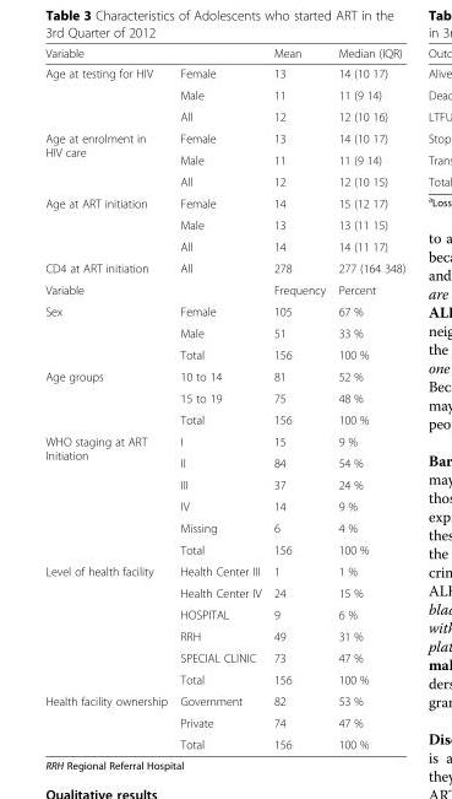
<table><thead><tr><td>Variable</td><td></td><td>Mean</td><td>Median (IQR)</td></tr></thead><tbody><tr><td rowspan="3">Age at testing for HIV</td><td>Female</td><td>13</td><td>14 (10 17)</td></tr><tr><td>Male</td><td>11</td><td>11 (9 14)</td></tr><tr><td>All</td><td>12</td><td>12 (10 16)</td></tr><tr><td rowspan="3">Age at enrolment in HIV care</td><td>Female</td><td>13</td><td>14 (10 17)</td></tr><tr><td>Male</td><td>11</td><td>11 (9 14)</td></tr><tr><td>All</td><td>12</td><td>12 (10 15)</td></tr><tr><td rowspan="3">Age at ART initiation</td><td>Female</td><td>14</td><td>15 (12 17)</td></tr><tr><td>Male</td><td>13</td><td>13 (11 15)</td></tr><tr><td>All</td><td>14</td><td>14 (11 17)</td></tr><tr><td>CD4 at ART initiation</td><td>All</td><td>278</td><td>277 (164 348)</td></tr><tr><td>Variable</td><td></td><td>Frequency</td><td>Percent</td></tr><tr><td rowspan="3">Sex</td><td>Female</td><td>105</td><td>67 %</td></tr><tr><td>Male</td><td>51</td><td>33 %</td></tr><tr><td>Total</td><td>156</td><td>100 %</td></tr><tr><td rowspan="3">Age groups</td><td>10 to 14</td><td>81</td><td>52 %</td></tr><tr><td>15 to 19</td><td>75</td><td>48 %</td></tr><tr><td>Total</td><td>156</td><td>100 %</td></tr><tr><td rowspan="6">WHO staging at ART Initiation</td><td>I</td><td>15</td><td>9 %</td></tr><tr><td>II</td><td>84</td><td>54 %</td></tr><tr><td>III</td><td>37</td><td>24 %</td></tr><tr><td>IV</td><td>14</td><td>9 %</td></tr><tr><td>Missing</td><td>6</td><td>4 %</td></tr><tr><td>Total</td><td>156</td><td>100 %</td></tr><tr><td rowspan="6">Level of health facility</td><td>Health Center III</td><td>1</td><td>1 %</td></tr><tr><td>Health Center IV</td><td>24</td><td>15 %</td></tr><tr><td>HOSPITAL</td><td>9</td><td>6 %</td></tr><tr><td>RRH</td><td>49</td><td>31 %</td></tr><tr><td>SPECIAL CLINIC</td><td>73</td><td>47 %</td></tr><tr><td>Total</td><td>156</td><td>100 %</td></tr><tr><td rowspan="3">Health facility ownership</td><td>Government</td><td>82</td><td>53 %</td></tr><tr><td>Private</td><td>74</td><td>47 %</td></tr><tr><td>Total</td><td>156</td><td>100 %</td></tr></tbody></table>